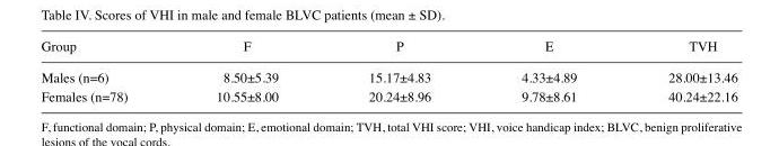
<table><thead><tr><td>Group</td><td>F</td><td>P</td><td>E</td><td>TVH</td></tr></thead><tbody><tr><td>Males (n=6)</td><td>8.50±5.39</td><td>15.17±4.83</td><td>4.33±4.89</td><td>28.00±13.46</td></tr><tr><td>Females (n=78)</td><td>10.55±8.00</td><td>20.24±8.96</td><td>9.78±8.61</td><td>40.24±22.16</td></tr></tbody></table>